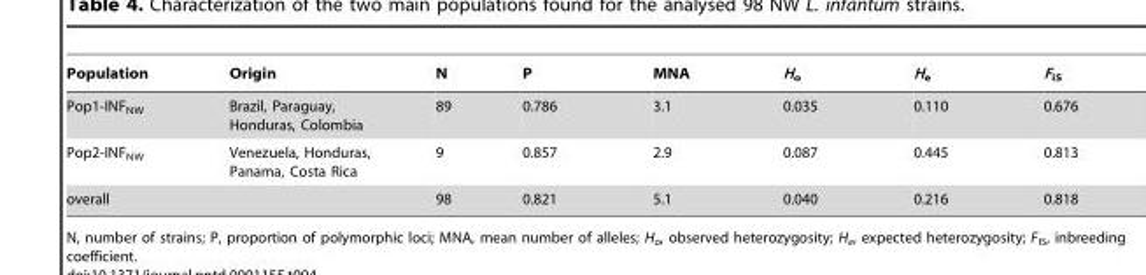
<table><thead><tr><td>Population</td><td>Origin</td><td>N</td><td>P</td><td>MNA</td><td>H<sub>o</sub></td><td>H<sub>e</sub></td><td>F<sub>iS</sub></td></tr></thead><tbody><tr><td>Pop1-INF<sub>NW</sub></td><td>Brazil, Paraguay, Honduras, Colombia</td><td>89</td><td>0.786</td><td>3.1</td><td>0.035</td><td>0.110</td><td>0.676</td></tr><tr><td>Pop2-INF<sub>NW</sub></td><td>Venezuela, Honduras, Panama, Costa Rica</td><td>9</td><td>0.857</td><td>2.9</td><td>0.087</td><td>0.445</td><td>0.813</td></tr><tr><td>overall</td><td></td><td>98</td><td>0.821</td><td>5.1</td><td>0.040</td><td>0.216</td><td>0.818</td></tr></tbody></table>